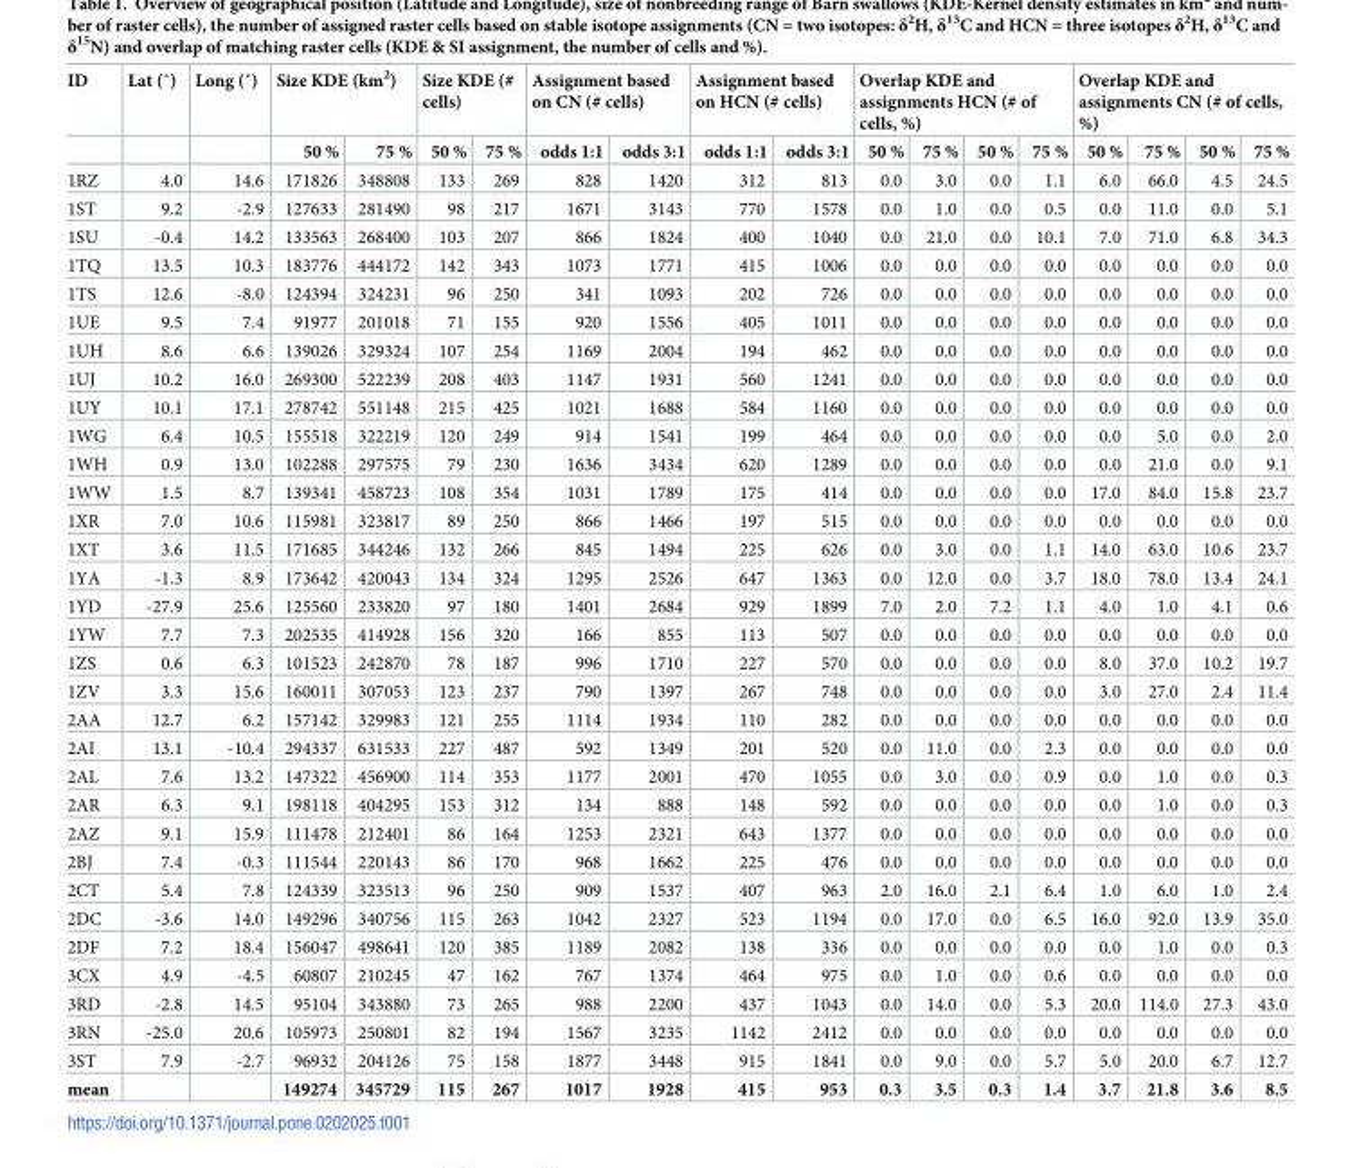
<table><thead><tr><td rowspan="2">ID</td><td rowspan="2">Lat (˚)</td><td rowspan="2">Long (˚)</td><td colspan="2">Size KDE (km<sup>2</sup>)</td><td colspan="2">Size KDE (# cells)</td><td colspan="2">Assignment based on CN (# cells)</td><td colspan="2">Assignment based on HCN (# cells)</td><td colspan="4">Overlap KDE and assignments HCN (# of cells, %)</td><td colspan="4">Overlap KDE and assignments CN (# of cells, %)</td></tr><tr><td>50 %</td><td>75 %</td><td>50 %</td><td>75 %</td><td>odds 1:1</td><td>odds 3:1</td><td>odds 1:1</td><td>odds 3:1</td><td>50 %</td><td>75 %</td><td>50 %</td><td>75 %</td><td>50 %</td><td>75 %</td><td>50 %</td><td>75 %</td></tr></thead><tbody><tr><td>1RZ</td><td>4.0</td><td>14.6</td><td>171826</td><td>348808</td><td>133</td><td>269</td><td>828</td><td>1420</td><td>312</td><td>813</td><td>0.0</td><td>3.0</td><td>0.0</td><td>1.1</td><td>6.0</td><td>66.0</td><td>4.5</td><td>24.5</td></tr><tr><td>1ST</td><td>9.2</td><td>-2.9</td><td>127633</td><td>281490</td><td>98</td><td>217</td><td>1671</td><td>3143</td><td>770</td><td>1578</td><td>0.0</td><td>1.0</td><td>0.0</td><td>0.5</td><td>0.0</td><td>11.0</td><td>0.0</td><td>5.1</td></tr><tr><td>1SU</td><td>-0.4</td><td>14.2</td><td>133563</td><td>268400</td><td>103</td><td>207</td><td>866</td><td>1824</td><td>400</td><td>1040</td><td>0.0</td><td>21.0</td><td>0.0</td><td>10.1</td><td>7.0</td><td>71.0</td><td>6.8</td><td>34.3</td></tr><tr><td>1TQ</td><td>13.5</td><td>10.3</td><td>183776</td><td>444172</td><td>142</td><td>343</td><td>1073</td><td>1771</td><td>415</td><td>1006</td><td>0.0</td><td>0.0</td><td>0.0</td><td>0.0</td><td>0.0</td><td>0.0</td><td>0.0</td><td>0.0</td></tr><tr><td>1TS</td><td>12.6</td><td>-8.0</td><td>124394</td><td>324231</td><td>96</td><td>250</td><td>341</td><td>1093</td><td>202</td><td>726</td><td>0.0</td><td>0.0</td><td>0.0</td><td>0.0</td><td>0.0</td><td>0.0</td><td>0.0</td><td>0.0</td></tr><tr><td>1UE</td><td>9.5</td><td>7.4</td><td>91977</td><td>201018</td><td>71</td><td>155</td><td>920</td><td>1556</td><td>405</td><td>1011</td><td>0.0</td><td>0.0</td><td>0.0</td><td>0.0</td><td>0.0</td><td>0.0</td><td>0.0</td><td>0.0</td></tr><tr><td>1UH</td><td>8.6</td><td>6.6</td><td>139026</td><td>329324</td><td>107</td><td>254</td><td>1169</td><td>2004</td><td>194</td><td>462</td><td>0.0</td><td>0.0</td><td>0.0</td><td>0.0</td><td>0.0</td><td>0.0</td><td>0.0</td><td>0.0</td></tr><tr><td>1UJ</td><td>10.2</td><td>16.0</td><td>269300</td><td>522239</td><td>208</td><td>403</td><td>1147</td><td>1931</td><td>560</td><td>1241</td><td>0.0</td><td>0.0</td><td>0.0</td><td>0.0</td><td>0.0</td><td>0.0</td><td>0.0</td><td>0.0</td></tr><tr><td>1UY</td><td>10.1</td><td>17.1</td><td>278742</td><td>551148</td><td>215</td><td>425</td><td>1021</td><td>1688</td><td>584</td><td>1160</td><td>0.0</td><td>0.0</td><td>0.0</td><td>0.0</td><td>0.0</td><td>0.0</td><td>0.0</td><td>0.0</td></tr><tr><td>1WG</td><td>6.4</td><td>10.5</td><td>155518</td><td>322219</td><td>120</td><td>249</td><td>914</td><td>1541</td><td>199</td><td>464</td><td>0.0</td><td>0.0</td><td>0.0</td><td>0.0</td><td>0.0</td><td>5.0</td><td>0.0</td><td>2.0</td></tr><tr><td>1WH</td><td>0.9</td><td>13.0</td><td>102288</td><td>297575</td><td>79</td><td>230</td><td>1636</td><td>3434</td><td>620</td><td>1289</td><td>0.0</td><td>0.0</td><td>0.0</td><td>0.0</td><td>0.0</td><td>21.0</td><td>0.0</td><td>9.1</td></tr><tr><td>1WW</td><td>1.5</td><td>8.7</td><td>139341</td><td>458723</td><td>108</td><td>354</td><td>1031</td><td>1789</td><td>175</td><td>414</td><td>0.0</td><td>0.0</td><td>0.0</td><td>0.0</td><td>17.0</td><td>84.0</td><td>15.8</td><td>23.7</td></tr><tr><td>1XR</td><td>7.0</td><td>10.6</td><td>115981</td><td>323817</td><td>89</td><td>250</td><td>866</td><td>1466</td><td>197</td><td>515</td><td>0.0</td><td>0.0</td><td>0.0</td><td>0.0</td><td>0.0</td><td>0.0</td><td>0.0</td><td>0.0</td></tr><tr><td>1XT</td><td>3.6</td><td>11.5</td><td>171685</td><td>344246</td><td>132</td><td>266</td><td>845</td><td>1494</td><td>225</td><td>626</td><td>0.0</td><td>3.0</td><td>0.0</td><td>1.1</td><td>14.0</td><td>63.0</td><td>10.6</td><td>23.7</td></tr><tr><td>1YA</td><td>-1.3</td><td>8.9</td><td>173642</td><td>420043</td><td>134</td><td>324</td><td>1295</td><td>2526</td><td>647</td><td>1363</td><td>0.0</td><td>12.0</td><td>0.0</td><td>3.7</td><td>18.0</td><td>78.0</td><td>13.4</td><td>24.1</td></tr><tr><td>1YD</td><td>-27.9</td><td>25.6</td><td>125560</td><td>233820</td><td>97</td><td>180</td><td>1401</td><td>2684</td><td>929</td><td>1899</td><td>7.0</td><td>2.0</td><td>7.2</td><td>1.1</td><td>4.0</td><td>1.0</td><td>4.1</td><td>0.6</td></tr><tr><td>1YW</td><td>7.7</td><td>7.3</td><td>202535</td><td>414928</td><td>156</td><td>320</td><td>166</td><td>855</td><td>113</td><td>507</td><td>0.0</td><td>0.0</td><td>0.0</td><td>0.0</td><td>0.0</td><td>0.0</td><td>0.0</td><td>0.0</td></tr><tr><td>1ZS</td><td>0.6</td><td>6.3</td><td>101523</td><td>242870</td><td>78</td><td>187</td><td>996</td><td>1710</td><td>227</td><td>570</td><td>0.0</td><td>0.0</td><td>0.0</td><td>0.0</td><td>8.0</td><td>37.0</td><td>10.2</td><td>19.7</td></tr><tr><td>1ZV</td><td>3.3</td><td>15.6</td><td>160011</td><td>307053</td><td>123</td><td>237</td><td>790</td><td>1397</td><td>267</td><td>748</td><td>0.0</td><td>0.0</td><td>0.0</td><td>0.0</td><td>3.0</td><td>27.0</td><td>2.4</td><td>11.4</td></tr><tr><td>2AA</td><td>12.7</td><td>6.2</td><td>157142</td><td>329983</td><td>121</td><td>255</td><td>1114</td><td>1934</td><td>110</td><td>282</td><td>0.0</td><td>0.0</td><td>0.0</td><td>0.0</td><td>0.0</td><td>0.0</td><td>0.0</td><td>0.0</td></tr><tr><td>2AI</td><td>13.1</td><td>-10.4</td><td>294337</td><td>631533</td><td>227</td><td>487</td><td>592</td><td>1349</td><td>201</td><td>520</td><td>0.0</td><td>11.0</td><td>0.0</td><td>2.3</td><td>0.0</td><td>0.0</td><td>0.0</td><td>0.0</td></tr><tr><td>2AL</td><td>7.6</td><td>13.2</td><td>147322</td><td>456900</td><td>114</td><td>353</td><td>1177</td><td>2001</td><td>470</td><td>1055</td><td>0.0</td><td>3.0</td><td>0.0</td><td>0.9</td><td>0.0</td><td>1.0</td><td>0.0</td><td>0.3</td></tr><tr><td>2AR</td><td>6.3</td><td>9.1</td><td>198118</td><td>404295</td><td>153</td><td>312</td><td>134</td><td>888</td><td>148</td><td>592</td><td>0.0</td><td>0.0</td><td>0.0</td><td>0.0</td><td>0.0</td><td>1.0</td><td>0.0</td><td>0.3</td></tr><tr><td>2AZ</td><td>9.1</td><td>15.9</td><td>111478</td><td>212401</td><td>86</td><td>164</td><td>1253</td><td>2321</td><td>643</td><td>1377</td><td>0.0</td><td>0.0</td><td>0.0</td><td>0.0</td><td>0.0</td><td>0.0</td><td>0.0</td><td>0.0</td></tr><tr><td>2BJ</td><td>7.4</td><td>-0.3</td><td>111544</td><td>220143</td><td>86</td><td>170</td><td>968</td><td>1662</td><td>225</td><td>476</td><td>0.0</td><td>0.0</td><td>0.0</td><td>0.0</td><td>0.0</td><td>0.0</td><td>0.0</td><td>0.0</td></tr><tr><td>2CT</td><td>5.4</td><td>7.8</td><td>124339</td><td>323513</td><td>96</td><td>250</td><td>909</td><td>1537</td><td>407</td><td>963</td><td>2.0</td><td>16.0</td><td>2.1</td><td>6.4</td><td>1.0</td><td>6.0</td><td>1.0</td><td>2.4</td></tr><tr><td>2DC</td><td>-3.6</td><td>14.0</td><td>149296</td><td>340756</td><td>115</td><td>263</td><td>1042</td><td>2327</td><td>523</td><td>1194</td><td>0.0</td><td>17.0</td><td>0.0</td><td>6.5</td><td>16.0</td><td>92.0</td><td>13.9</td><td>35.0</td></tr><tr><td>2DF</td><td>7.2</td><td>18.4</td><td>156047</td><td>498641</td><td>120</td><td>385</td><td>1189</td><td>2082</td><td>138</td><td>336</td><td>0.0</td><td>0.0</td><td>0.0</td><td>0.0</td><td>0.0</td><td>1.0</td><td>0.0</td><td>0.3</td></tr><tr><td>3CX</td><td>4.9</td><td>-4.5</td><td>60807</td><td>210245</td><td>47</td><td>162</td><td>767</td><td>1374</td><td>464</td><td>975</td><td>0.0</td><td>1.0</td><td>0.0</td><td>0.6</td><td>0.0</td><td>0.0</td><td>0.0</td><td>0.0</td></tr><tr><td>3RD</td><td>-2.8</td><td>14.5</td><td>95104</td><td>343880</td><td>73</td><td>265</td><td>988</td><td>2200</td><td>437</td><td>1043</td><td>0.0</td><td>14.0</td><td>0.0</td><td>5.3</td><td>20.0</td><td>114.0</td><td>27.3</td><td>43.0</td></tr><tr><td>3RN</td><td>-25.0</td><td>20.6</td><td>105973</td><td>250801</td><td>82</td><td>194</td><td>1567</td><td>3235</td><td>1142</td><td>2412</td><td>0.0</td><td>0.0</td><td>0.0</td><td>0.0</td><td>0.0</td><td>0.0</td><td>0.0</td><td>0.0</td></tr><tr><td>3ST</td><td>7.9</td><td>-2.7</td><td>96932</td><td>204126</td><td>75</td><td>158</td><td>1877</td><td>3448</td><td>915</td><td>1841</td><td>0.0</td><td>9.0</td><td>0.0</td><td>5.7</td><td>5.0</td><td>20.0</td><td>6.7</td><td>12.7</td></tr><tr><td>mean</td><td></td><td></td><td>149274</td><td>345729</td><td>115</td><td>267</td><td>1017</td><td>1928</td><td>415</td><td>953</td><td>0.3</td><td>3.5</td><td>0.3</td><td>1.4</td><td>3.7</td><td>21.8</td><td>3.6</td><td>8.5</td></tr></tbody></table>